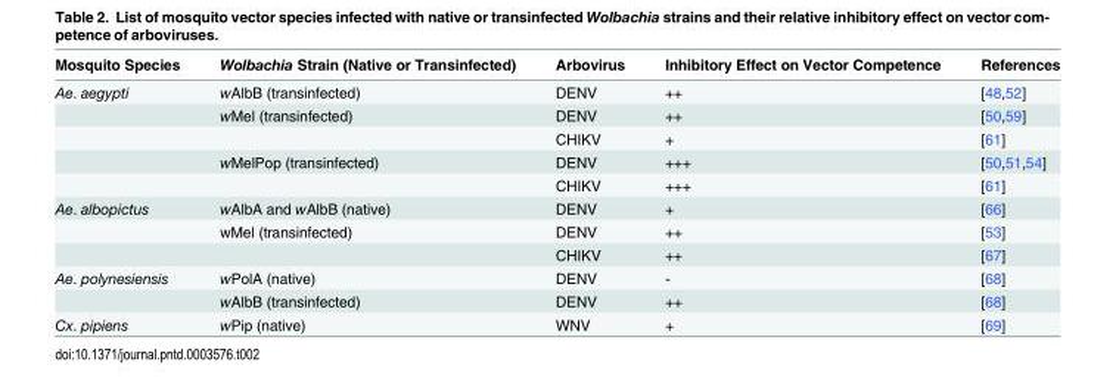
<table><thead><tr><td>Mosquito Species</td><td>Wolbachia Strain (Native or Transinfected)</td><td>Arbovirus</td><td>Inhibitory Effect on Vector Competence</td><td>References</td></tr></thead><tbody><tr><td rowspan="5">Ae. aegypti</td><td>wAlbB (transinfected)</td><td>DENV</td><td>++</td><td>[48,52]</td></tr><tr><td>wMel (transinfected)</td><td>DENV</td><td>++</td><td>[50,59]</td></tr><tr><td></td><td>CHIKV</td><td>+</td><td>[61]</td></tr><tr><td>wMelPop (transinfected)</td><td>DENV</td><td>+++</td><td>[50,51,54]</td></tr><tr><td></td><td>CHIKV</td><td>+++</td><td>[61]</td></tr><tr><td rowspan="3">Ae. albopictus</td><td>wAlbA and wAlbB (native)</td><td>DENV</td><td>+</td><td>[66]</td></tr><tr><td>wMel (transinfected)</td><td>DENV</td><td>++</td><td>[53]</td></tr><tr><td></td><td>CHIKV</td><td>++</td><td>[67]</td></tr><tr><td rowspan="2">Ae. polynesiensis</td><td>wPolA (native)</td><td>DENV</td><td>-</td><td>[68]</td></tr><tr><td>wAlbB (transinfected)</td><td>DENV</td><td>++</td><td>[68]</td></tr><tr><td>Cx. pipiens</td><td>wPip (native)</td><td>WNV</td><td>+</td><td>[69]</td></tr></tbody></table>